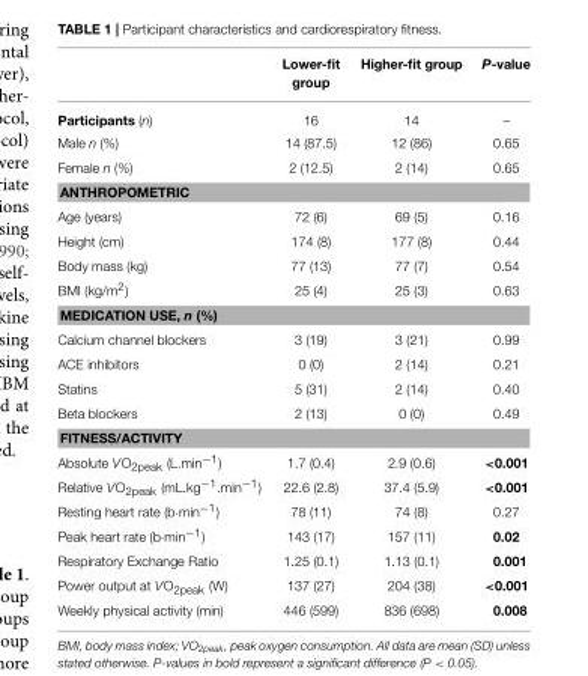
<table><thead><tr><td></td><td>Lower-fit group</td><td>Higher-fit group</td><td>P-value</td></tr></thead><tbody><tr><td>Participants (n)</td><td>16</td><td>14</td><td>–</td></tr><tr><td>Male n (%)</td><td>14 (87.5)</td><td>12 (86)</td><td>0.65</td></tr><tr><td>Female n (%)</td><td>2 (12.5)</td><td>2 (14)</td><td>0.65</td></tr><tr><td colspan="4">ANTHROPOMETRIC</td></tr><tr><td>Age (years)</td><td>72 (6)</td><td>69 (5)</td><td>0.16</td></tr><tr><td>Height (cm)</td><td>174 (8)</td><td>177 (8)</td><td>0.44</td></tr><tr><td>Body mass (kg)</td><td>77 (13)</td><td>77 (7)</td><td>0.54</td></tr><tr><td>BMI (kg/m<sup>2</sup>)</td><td>25 (4)</td><td>25 (3)</td><td>0.63</td></tr><tr><td colspan="4">MEDICATION USE, n (%)</td></tr><tr><td>Calcium channel blockers</td><td>3 (19)</td><td>3 (21)</td><td>0.99</td></tr><tr><td>ACE inhibitors</td><td>0 (0)</td><td>2 (14)</td><td>0.21</td></tr><tr><td>Statins</td><td>5 (31)</td><td>2 (14)</td><td>0.40</td></tr><tr><td>Beta blockers</td><td>2 (13)</td><td>0 (0)</td><td>0.49</td></tr><tr><td colspan="4">FITNESS/ACTIVITY</td></tr><tr><td>Absolute VO<sub>2peak</sub> (L.min<sup>−1</sup>)</td><td>1.7 (0.4)</td><td>2.9 (0.6)</td><td>&lt;0.001</td></tr><tr><td>Relative VO<sub>2peak</sub> (mL.kg<sup>−1</sup>.min<sup>−1</sup>)</td><td>22.6 (2.8)</td><td>37.4 (5.9)</td><td>&lt;0.001</td></tr><tr><td>Resting heart rate (b·min<sup>−1</sup>)</td><td>78 (11)</td><td>74 (8)</td><td>0.27</td></tr><tr><td>Peak heart rate (b·min<sup>−1</sup>)</td><td>143 (17)</td><td>157 (11)</td><td>0.02</td></tr><tr><td>Respiratory Exchange Ratio</td><td>1.25 (0.1)</td><td>1.13 (0.1)</td><td>0.001</td></tr><tr><td>Power output at VO<sub>2peak</sub> (W)</td><td>137 (27)</td><td>204 (38)</td><td>&lt;0.001</td></tr><tr><td>Weekly physical activity (min)</td><td>446 (599)</td><td>836 (698)</td><td>0.008</td></tr></tbody></table>